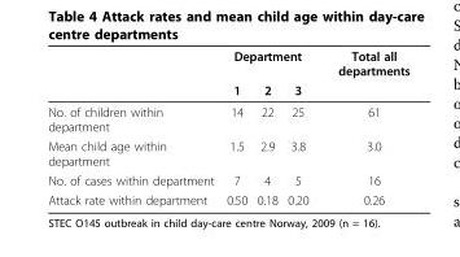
<table><thead><tr><td rowspan="2"></td><td colspan="3">Department</td><td rowspan="2">Total all departments</td></tr><tr><td>1</td><td>2</td><td>3</td></tr></thead><tbody><tr><td>No. of children within department</td><td>14</td><td>22</td><td>25</td><td>61</td></tr><tr><td>Mean child age within department</td><td>1.5</td><td>2.9</td><td>3.8</td><td>3.0</td></tr><tr><td>No. of cases within department</td><td>7</td><td>4</td><td>5</td><td>16</td></tr><tr><td>Attack rate within department</td><td>0.50</td><td>0.18</td><td>0.20</td><td>0.26</td></tr></tbody></table>